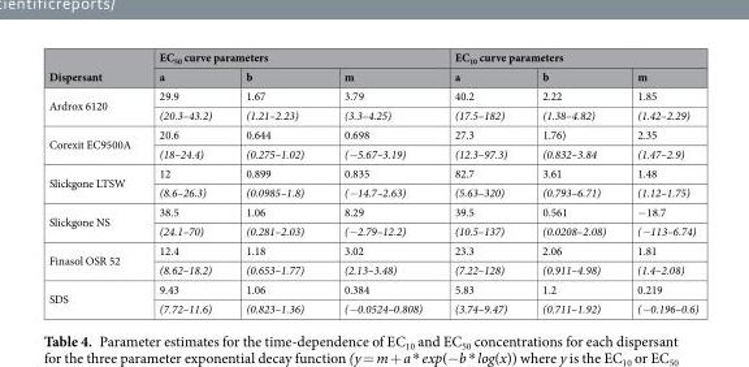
<table><thead><tr><td rowspan="2">Dispersant</td><td colspan="3">EC<sub>50</sub> curve parameters</td><td colspan="3">EC<sub>10</sub> curve parameters</td></tr><tr><td>a</td><td>b</td><td>m</td><td>a</td><td>b</td><td>m</td></tr></thead><tbody><tr><td rowspan="2">Ardrox 6120</td><td>29.9</td><td>1.67</td><td>3.79</td><td>40.2</td><td>2.22</td><td>1.85</td></tr><tr><td>(20.3–43.2)</td><td>(1.21–2.23)</td><td>(3.3–4.25)</td><td>(17.5–182)</td><td>(1.38–4.82)</td><td>(1.42–2.29)</td></tr><tr><td rowspan="2">Corexit EC9500A</td><td>20.6</td><td>0.644</td><td>0.698</td><td>27.3</td><td>1.76)</td><td>2.35</td></tr><tr><td>(18–24.4)</td><td>(0.275–1.02)</td><td>(−5.67–3.19)</td><td>(12.3–97.3)</td><td>(0.832–3.84</td><td>(1.47–2.9)</td></tr><tr><td rowspan="2">Slickgone LTSW</td><td>12</td><td>0.899</td><td>0.835</td><td>82.7</td><td>3.61</td><td>1.48</td></tr><tr><td>(8.6–26.3)</td><td>(0.0985–1.8)</td><td>(−14.7–2.63)</td><td>(5.63–320)</td><td>(0.793–6.71)</td><td>(1.12–1.75)</td></tr><tr><td rowspan="2">Slickgone NS</td><td>38.5</td><td>1.06</td><td>8.29</td><td>39.5</td><td>0.561</td><td>−18.7</td></tr><tr><td>(24.1–70)</td><td>(0.281–2.03)</td><td>(−2.79–12.2)</td><td>(10.5–137)</td><td>(0.0208–2.08)</td><td>(−113–6.74)</td></tr><tr><td rowspan="2">Finasol OSR 52</td><td>12.4</td><td>1.18</td><td>3.02</td><td>23.3</td><td>2.06</td><td>1.81</td></tr><tr><td>(8.62–18.2)</td><td>(0.653–1.77)</td><td>(2.13–3.48)</td><td>(7.22–128)</td><td>(0.911–4.98)</td><td>(1.4–2.08)</td></tr><tr><td rowspan="2">SDS</td><td>9.43</td><td>1.06</td><td>0.384</td><td>5.83</td><td>1.2</td><td>0.219</td></tr><tr><td>(7.72–11.6)</td><td>(0.823–1.36)</td><td>(−0.0524–0.808)</td><td>(3.74–9.47)</td><td>(0.711–1.92)</td><td>(−0.196–0.6)</td></tr></tbody></table>